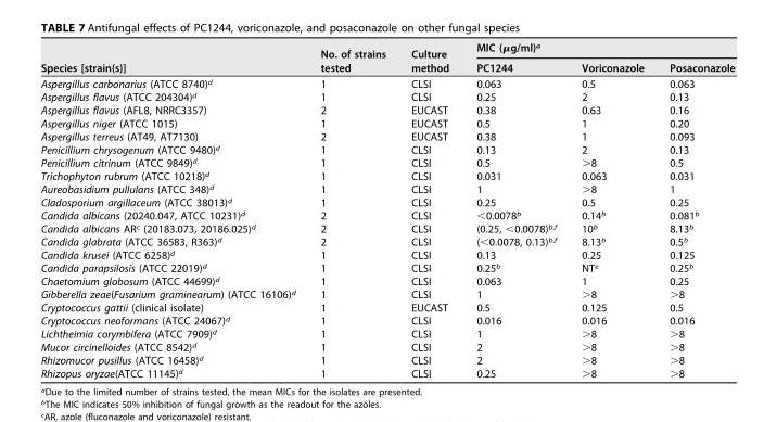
<table><thead><tr><td rowspan="2">Species [strain(s)]</td><td rowspan="2">No. of strains tested</td><td rowspan="2">Culture method</td><td colspan="3">MIC (μg/ml)<sup>a</sup></td></tr><tr><td>PC1244</td><td>Voriconazole</td><td>Posaconazole</td></tr></thead><tbody><tr><td>Aspergillus carbonarius (ATCC 8740)<sup>d</sup></td><td>1</td><td>CLSI</td><td>0.063</td><td>0.5</td><td>0.063</td></tr><tr><td>Aspergillus flavus (ATCC 204304)<sup>d</sup></td><td>1</td><td>CLSI</td><td>0.25</td><td>2</td><td>0.13</td></tr><tr><td>Aspergillus flavus (AFL8, NRRC3357)</td><td>2</td><td>EUCAST</td><td>0.38</td><td>0.63</td><td>0.16</td></tr><tr><td>Aspergillus niger (ATCC 1015)</td><td>1</td><td>EUCAST</td><td>0.5</td><td>1</td><td>0.20</td></tr><tr><td>Aspergillus terreus (AT49, AT7130)</td><td>2</td><td>EUCAST</td><td>0.38</td><td>1</td><td>0.093</td></tr><tr><td>Penicillium chrysogenum (ATCC 9480)<sup>d</sup></td><td>1</td><td>CLSI</td><td>0.13</td><td>2</td><td>0.13</td></tr><tr><td>Penicillium citrinum (ATCC 9849)<sup>d</sup></td><td>1</td><td>CLSI</td><td>0.5</td><td>&gt;8</td><td>0.5</td></tr><tr><td>Trichophyton rubrum (ATCC 10218)<sup>d</sup></td><td>1</td><td>CLSI</td><td>0.031</td><td>0.063</td><td>0.031</td></tr><tr><td>Aureobasidium pullulans (ATCC 348)<sup>d</sup></td><td>1</td><td>CLSI</td><td>1</td><td>&gt;8</td><td>1</td></tr><tr><td>Cladosporium argillaceum (ATCC 38013)<sup>d</sup></td><td>1</td><td>CLSI</td><td>0.25</td><td>0.5</td><td>0.25</td></tr><tr><td>Candida albicans (20240.047, ATCC 10231)<sup>d</sup></td><td>2</td><td>CLSI</td><td>&lt;0.0078<sup>b</sup></td><td>0.14<sup>b</sup></td><td>0.081<sup>b</sup></td></tr><tr><td>Candida albicans AR<sup>c</sup> (20183.073, 20186.025)<sup>d</sup></td><td>2</td><td>CLSI</td><td>(0.25, &lt;0.0078)<sup>b,f</sup></td><td>10<sup>b</sup></td><td>8.13<sup>b</sup></td></tr><tr><td>Candida glabrata (ATCC 36583, R363)<sup>d</sup></td><td>2</td><td>CLSI</td><td>(&lt;0.0078, 0.13)<sup>b,f</sup></td><td>8.13<sup>b</sup></td><td>0.5<sup>b</sup></td></tr><tr><td>Candida krusei (ATCC 6258)<sup>d</sup></td><td>1</td><td>CLSI</td><td>0.13</td><td>0.25</td><td>0.125</td></tr><tr><td>Candida parapsilosis (ATCC 22019)<sup>d</sup></td><td>1</td><td>CLSI</td><td>0.25<sup>b</sup></td><td>NT<sup>e</sup></td><td>0.25<sup>b</sup></td></tr><tr><td>Chaetomium globosum (ATCC 44699)<sup>d</sup></td><td>1</td><td>CLSI</td><td>0.063</td><td>1</td><td>0.25</td></tr><tr><td>Gibberella zeae(Fusarium graminearum) (ATCC 16106)<sup>d</sup></td><td>1</td><td>CLSI</td><td>1</td><td>&gt;8</td><td>&gt;8</td></tr><tr><td>Cryptococcus gattii (clinical isolate)</td><td>1</td><td>EUCAST</td><td>0.5</td><td>0.125</td><td>0.5</td></tr><tr><td>Cryptococcus neoformans (ATCC 24067)<sup>d</sup></td><td>1</td><td>CLSI</td><td>0.016</td><td>0.016</td><td>0.016</td></tr><tr><td>Lichtheimia corymbifera (ATCC 7909)<sup>d</sup></td><td>1</td><td>CLSI</td><td>1</td><td>&gt;8</td><td>&gt;8</td></tr><tr><td>Mucor circinelloides (ATCC 8542)<sup>d</sup></td><td>1</td><td>CLSI</td><td>2</td><td>&gt;8</td><td>&gt;8</td></tr><tr><td>Rhizomucor pusillus (ATCC 16458)<sup>d</sup></td><td>1</td><td>CLSI</td><td>2</td><td>&gt;8</td><td>&gt;8</td></tr><tr><td>Rhizopus oryzae(ATCC 11145)<sup>d</sup></td><td>1</td><td>CLSI</td><td>0.25</td><td>&gt;8</td><td>&gt;8</td></tr></tbody></table>